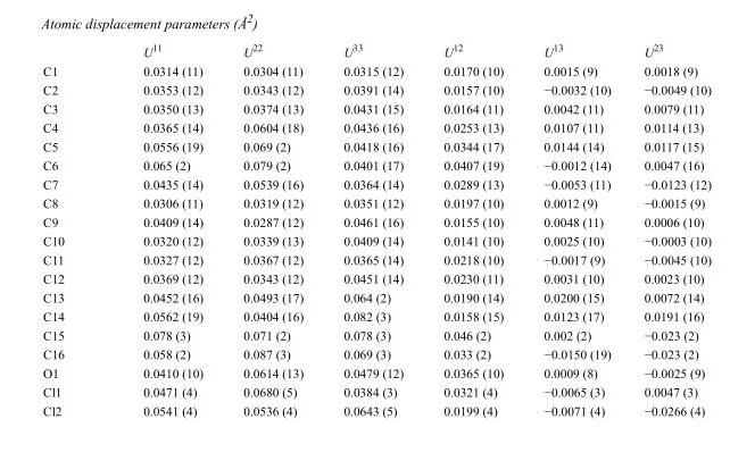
<table><thead><tr><td></td><td>U<sup>11</sup></td><td>U<sup>22</sup></td><td>U<sup>33</sup></td><td>U<sup>12</sup></td><td>U<sup>13</sup></td><td>U<sup>23</sup></td></tr></thead><tbody><tr><td>C1</td><td>0.0314 (11)</td><td>0.0304 (11)</td><td>0.0315 (12)</td><td>0.0170 (10)</td><td>0.0015 (9)</td><td>0.0018 (9)</td></tr><tr><td>C2</td><td>0.0353 (12)</td><td>0.0343 (12)</td><td>0.0391 (14)</td><td>0.0157 (10)</td><td>−0.0032 (10)</td><td>−0.0049 (10)</td></tr><tr><td>C3</td><td>0.0350 (13)</td><td>0.0374 (13)</td><td>0.0431 (15)</td><td>0.0164 (11)</td><td>0.0042 (11)</td><td>0.0079 (11)</td></tr><tr><td>C4</td><td>0.0365 (14)</td><td>0.0604 (18)</td><td>0.0436 (16)</td><td>0.0253 (13)</td><td>0.0107 (11)</td><td>0.0114 (13)</td></tr><tr><td>C5</td><td>0.0556 (19)</td><td>0.069 (2)</td><td>0.0418 (16)</td><td>0.0344 (17)</td><td>0.0144 (14)</td><td>0.0117 (15)</td></tr><tr><td>C6</td><td>0.065 (2)</td><td>0.079 (2)</td><td>0.0401 (17)</td><td>0.0407 (19)</td><td>−0.0012 (14)</td><td>0.0047 (16)</td></tr><tr><td>C7</td><td>0.0435 (14)</td><td>0.0539 (16)</td><td>0.0364 (14)</td><td>0.0289 (13)</td><td>−0.0053 (11)</td><td>−0.0123 (12)</td></tr><tr><td>C8</td><td>0.0306 (11)</td><td>0.0319 (12)</td><td>0.0351 (12)</td><td>0.0197 (10)</td><td>0.0012 (9)</td><td>−0.0015 (9)</td></tr><tr><td>C9</td><td>0.0409 (14)</td><td>0.0287 (12)</td><td>0.0461 (16)</td><td>0.0155 (10)</td><td>0.0048 (11)</td><td>0.0006 (10)</td></tr><tr><td>C10</td><td>0.0320 (12)</td><td>0.0339 (13)</td><td>0.0409 (14)</td><td>0.0141 (10)</td><td>0.0025 (10)</td><td>−0.0003 (10)</td></tr><tr><td>C11</td><td>0.0327 (12)</td><td>0.0367 (12)</td><td>0.0365 (14)</td><td>0.0218 (10)</td><td>−0.0017 (9)</td><td>−0.0045 (10)</td></tr><tr><td>C12</td><td>0.0369 (12)</td><td>0.0343 (12)</td><td>0.0451 (14)</td><td>0.0230 (11)</td><td>0.0031 (10)</td><td>0.0023 (10)</td></tr><tr><td>C13</td><td>0.0452 (16)</td><td>0.0493 (17)</td><td>0.064 (2)</td><td>0.0190 (14)</td><td>0.0200 (15)</td><td>0.0072 (14)</td></tr><tr><td>C14</td><td>0.0562 (19)</td><td>0.0404 (16)</td><td>0.082 (3)</td><td>0.0158 (15)</td><td>0.0123 (17)</td><td>0.0191 (16)</td></tr><tr><td>C15</td><td>0.078 (3)</td><td>0.071 (2)</td><td>0.078 (3)</td><td>0.046 (2)</td><td>0.002 (2)</td><td>−0.023 (2)</td></tr><tr><td>C16</td><td>0.058 (2)</td><td>0.087 (3)</td><td>0.069 (3)</td><td>0.033 (2)</td><td>−0.0150 (19)</td><td>−0.023 (2)</td></tr><tr><td>O1</td><td>0.0410 (10)</td><td>0.0614 (13)</td><td>0.0479 (12)</td><td>0.0365 (10)</td><td>0.0009 (8)</td><td>−0.0025 (9)</td></tr><tr><td>Cl1</td><td>0.0471 (4)</td><td>0.0680 (5)</td><td>0.0384 (3)</td><td>0.0321 (4)</td><td>−0.0065 (3)</td><td>0.0047 (3)</td></tr><tr><td>Cl2</td><td>0.0541 (4)</td><td>0.0536 (4)</td><td>0.0643 (5)</td><td>0.0199 (4)</td><td>−0.0071 (4)</td><td>−0.0266 (4)</td></tr></tbody></table>